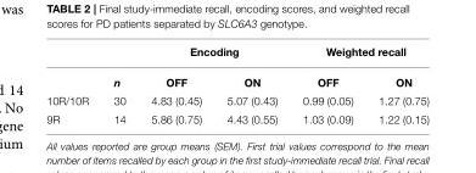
<table><thead><tr><td rowspan="2"></td><td rowspan="2">n</td><td colspan="2">Encoding</td><td colspan="2">Weighted recall</td></tr><tr><td>OFF</td><td>ON</td><td>OFF</td><td>ON</td></tr></thead><tbody><tr><td>10R/10R</td><td>30</td><td>4.83 (0.45)</td><td>5.07 (0.43)</td><td>0.99 (0.05)</td><td>1.27 (0.75)</td></tr><tr><td>9R</td><td>14</td><td>5.86 (0.75)</td><td>4.43 (0.55)</td><td>1.03 (0.09)</td><td>1.22 (0.15)</td></tr></tbody></table>